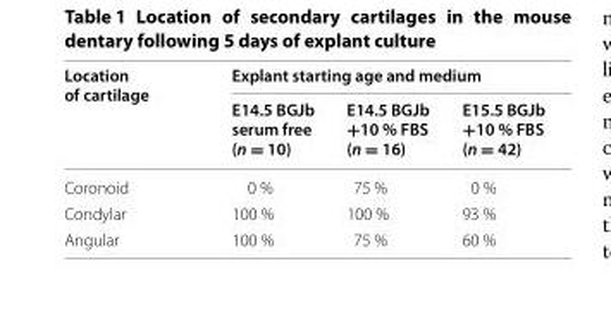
<table><thead><tr><td rowspan="2">Location of cartilage</td><td colspan="3">Explant starting age and medium</td></tr><tr><td>E14.5 BGJb serum free (n = 10)</td><td>E14.5 BGJb +10 % FBS (n = 16)</td><td>E15.5 BGJb +10 % FBS (n = 42)</td></tr></thead><tbody><tr><td>Coronoid</td><td>0 %</td><td>75 %</td><td>0 %</td></tr><tr><td>Condylar</td><td>100 %</td><td>100 %</td><td>93 %</td></tr><tr><td>Angular</td><td>100 %</td><td>75 %</td><td>60 %</td></tr></tbody></table>